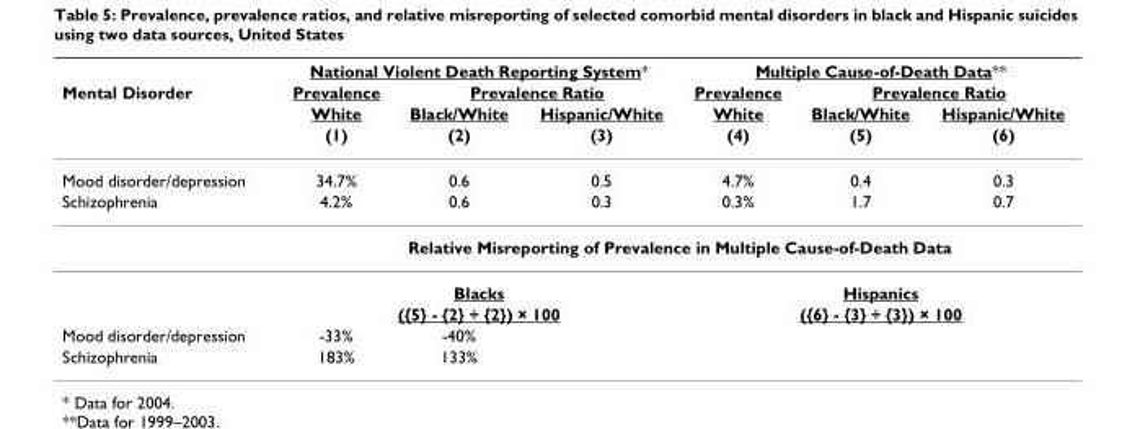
<table><thead><tr><td rowspan="4">Mental Disorder</td><td colspan="3">National Violent Death Reporting System*</td><td colspan="3">Multiple Cause-of-Death Data**</td></tr><tr><td rowspan="3">Prevalence White (1)</td><td colspan="2">Prevalence Ratio</td><td rowspan="3">Prevalence White (4)</td><td colspan="2">Prevalence Ratio</td></tr><tr><td rowspan="2">Black/White (2)</td><td rowspan="2">Hispanic/White (3)</td><td rowspan="2">Black/White (5)</td><td rowspan="2">Hispanic/White (6)</td></tr><tr></tr></thead><tbody><tr><td>Mood disorder/depression</td><td>34.7%</td><td>0.6</td><td>0.5</td><td>4.7%</td><td>0.4</td><td>0.3</td></tr><tr><td rowspan="4">Schizophrenia</td><td>4.2%</td><td>0.6</td><td>0.3</td><td>0.3%</td><td>1.7</td><td>0.7</td></tr><tr><td colspan="6">Relative Misreporting of Prevalence in Multiple Cause-of-Death Data</td></tr><tr><td colspan="3">Blacks</td><td colspan="3">Hispanics</td></tr><tr><td colspan="3">({5} - {2} ÷ {2}) × 100</td><td colspan="3">({6} - {3} ÷ {3}) × 100</td></tr><tr><td>Mood disorder/depression</td><td>-33%</td><td>-40%</td><td></td><td></td><td></td><td></td></tr><tr><td>Schizophrenia</td><td>183%</td><td>133%</td><td></td><td></td><td></td><td></td></tr></tbody></table>